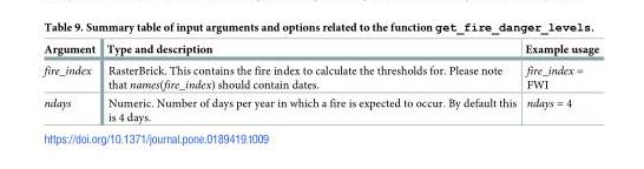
<table><thead><tr><td>Argument</td><td>Type and description</td><td>Example usage</td></tr></thead><tbody><tr><td>fire_index</td><td>RasterBrick. This contains the fire index to calculate the thresholds for. Please note that names(fire_index) should contain dates.</td><td>fire_index = FWI</td></tr><tr><td>ndays</td><td>Numeric. Number of days per year in which a fire is expected to occur. By default this is 4 days.</td><td>ndays = 4</td></tr></tbody></table>